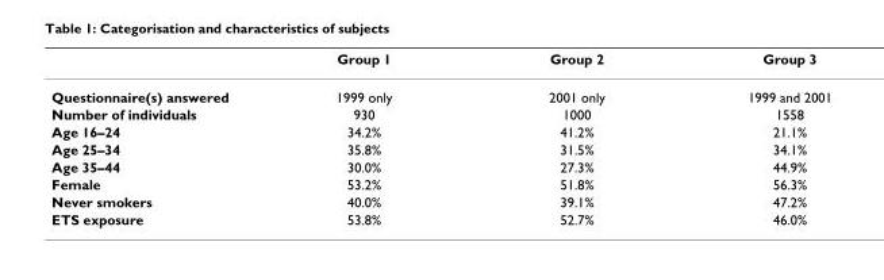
<table><thead><tr><td></td><td>Group 1</td><td>Group 2</td><td>Group 3</td></tr></thead><tbody><tr><td>Questionnaire(s) answered</td><td>1999 only</td><td>2001 only</td><td>1999 and 2001</td></tr><tr><td>Number of individuals</td><td>930</td><td>1000</td><td>1558</td></tr><tr><td>Age 16–24</td><td>34.2%</td><td>41.2%</td><td>21.1%</td></tr><tr><td>Age 25–34</td><td>35.8%</td><td>31.5%</td><td>34.1%</td></tr><tr><td>Age 35–44</td><td>30.0%</td><td>27.3%</td><td>44.9%</td></tr><tr><td>Female</td><td>53.2%</td><td>51.8%</td><td>56.3%</td></tr><tr><td>Never smokers</td><td>40.0%</td><td>39.1%</td><td>47.2%</td></tr><tr><td>ETS exposure</td><td>53.8%</td><td>52.7%</td><td>46.0%</td></tr></tbody></table>